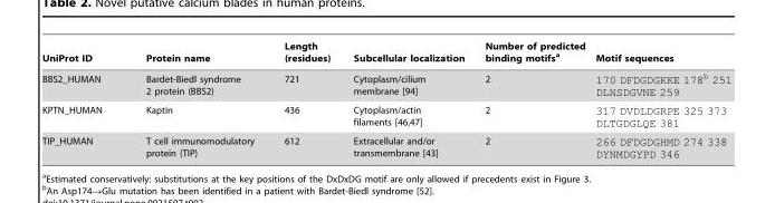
<table><thead><tr><td>UniProt ID</td><td>Protein name</td><td>Length (residues)</td><td>Subcellular localization</td><td>Number of predicted binding motifs<sup>a</sup></td><td>Motif sequences</td></tr></thead><tbody><tr><td>BBS2_HUMAN</td><td>Bardet-Biedl syndrome 2 protein (BBS2)</td><td>721</td><td>Cytoplasm/cilium membrane [94]</td><td>2</td><td>170 DFDGDGKKE 178b 251 DLNSDGVNE 259</td></tr><tr><td>KPTN_HUMAN</td><td>Kaptin</td><td>436</td><td>Cytoplasm/actin filaments [46,47]</td><td>2</td><td>317 DVDLDGRPE 325 373 DLTGDGLQE 381</td></tr><tr><td>TIP_HUMAN</td><td>T cell immunomodulatory protein (TIP)</td><td>612</td><td>Extracellular and/or transmembrane [43]</td><td>2</td><td>266 DFDGDGHMD 274 338 DYNMDGYPD 346</td></tr></tbody></table>